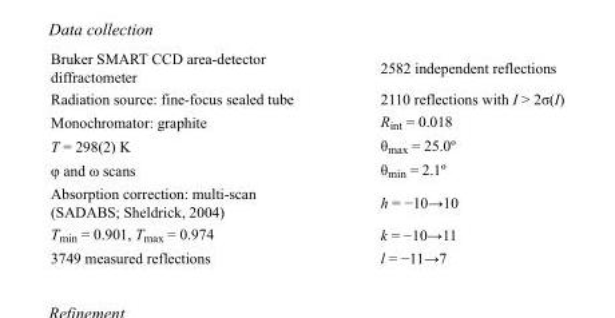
<table><tbody><tr><td>Bruker SMART CCD area-detector diffractometer</td><td>2582 independent reflections</td></tr><tr><td>Radiation source: fine-focus sealed tube</td><td>2110 reflections with I &gt; 2σ(I)</td></tr><tr><td>Monochromator: graphite</td><td>R<sub>int</sub> = 0.018</td></tr><tr><td>T = 298(2) K</td><td>θ<sub>max</sub> = 25.0º</td></tr><tr><td>φ and ω scans</td><td>θ<sub>min</sub> = 2.1º</td></tr><tr><td>Absorption correction: multi-scan (SADABS; Sheldrick, 2004)</td><td>h = −10→10</td></tr><tr><td>T<sub>min</sub> = 0.901, T<sub>max</sub> = 0.974</td><td>k = −10→11</td></tr><tr><td>3749 measured reflections</td><td>l = −11→7</td></tr></tbody></table>